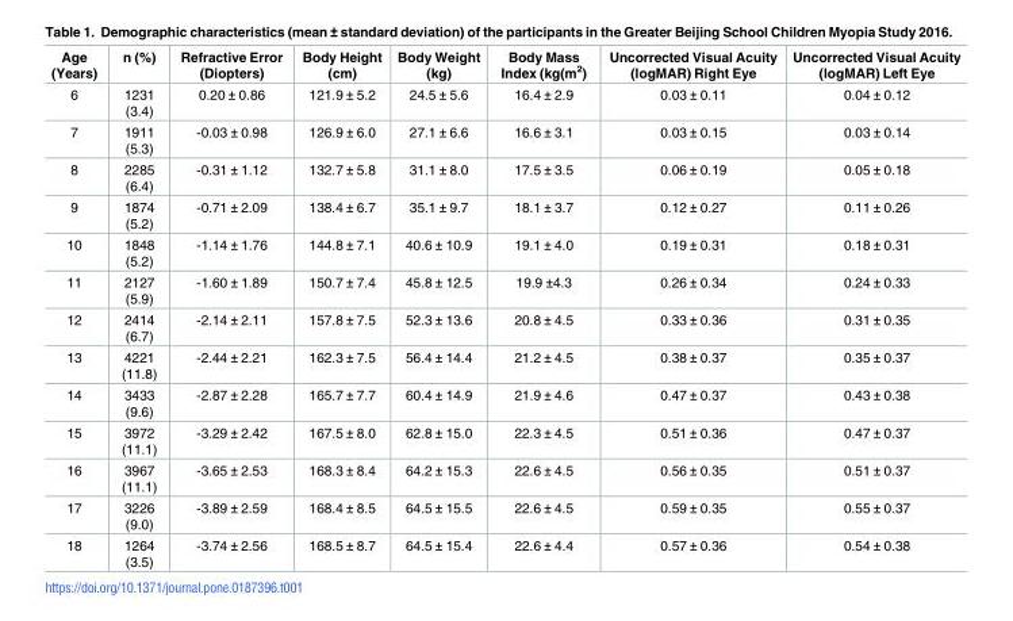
<table><thead><tr><td>Age (Years)</td><td>n (%)</td><td>Refractive Error (Diopters)</td><td>Body Height (cm)</td><td>Body Weight (kg)</td><td>Body Mass Index (kg(m<sup>2</sup>)</td><td>Uncorrected Visual Acuity (logMAR) Right Eye</td><td>Uncorrected Visual Acuity (logMAR) Left Eye</td></tr></thead><tbody><tr><td>6</td><td>1231 (3.4)</td><td>0.20 ± 0.86</td><td>121.9 ± 5.2</td><td>24.5 ± 5.6</td><td>16.4 ± 2.9</td><td>0.03 ± 0.11</td><td>0.04 ± 0.12</td></tr><tr><td>7</td><td>1911 (5.3)</td><td>-0.03 ± 0.98</td><td>126.9 ± 6.0</td><td>27.1 ± 6.6</td><td>16.6 ± 3.1</td><td>0.03 ± 0.15</td><td>0.03 ± 0.14</td></tr><tr><td>8</td><td>2285 (6.4)</td><td>-0.31 ± 1.12</td><td>132.7 ± 5.8</td><td>31.1 ± 8.0</td><td>17.5 ± 3.5</td><td>0.06 ± 0.19</td><td>0.05 ± 0.18</td></tr><tr><td>9</td><td>1874 (5.2)</td><td>-0.71 ± 2.09</td><td>138.4 ± 6.7</td><td>35.1 ± 9.7</td><td>18.1 ± 3.7</td><td>0.12 ± 0.27</td><td>0.11 ± 0.26</td></tr><tr><td>10</td><td>1848 (5.2)</td><td>-1.14 ± 1.76</td><td>144.8 ± 7.1</td><td>40.6 ± 10.9</td><td>19.1 ± 4.0</td><td>0.19 ± 0.31</td><td>0.18 ± 0.31</td></tr><tr><td>11</td><td>2127 (5.9)</td><td>-1.60 ± 1.89</td><td>150.7 ± 7.4</td><td>45.8 ± 12.5</td><td>19.9 ±4.3</td><td>0.26 ± 0.34</td><td>0.24 ± 0.33</td></tr><tr><td>12</td><td>2414 (6.7)</td><td>-2.14 ± 2.11</td><td>157.8 ± 7.5</td><td>52.3 ± 13.6</td><td>20.8 ± 4.5</td><td>0.33 ± 0.36</td><td>0.31 ± 0.35</td></tr><tr><td>13</td><td>4221 (11.8)</td><td>-2.44 ± 2.21</td><td>162.3 ± 7.5</td><td>56.4 ± 14.4</td><td>21.2 ± 4.5</td><td>0.38 ± 0.37</td><td>0.35 ± 0.37</td></tr><tr><td>14</td><td>3433 (9.6)</td><td>-2.87 ± 2.28</td><td>165.7 ± 7.7</td><td>60.4 ± 14.9</td><td>21.9 ± 4.6</td><td>0.47 ± 0.37</td><td>0.43 ± 0.38</td></tr><tr><td>15</td><td>3972 (11.1)</td><td>-3.29 ± 2.42</td><td>167.5 ± 8.0</td><td>62.8 ± 15.0</td><td>22.3 ± 4.5</td><td>0.51 ± 0.36</td><td>0.47 ± 0.37</td></tr><tr><td>16</td><td>3967 (11.1)</td><td>-3.65 ± 2.53</td><td>168.3 ± 8.4</td><td>64.2 ± 15.3</td><td>22.6 ± 4.5</td><td>0.56 ± 0.35</td><td>0.51 ± 0.37</td></tr><tr><td>17</td><td>3226 (9.0)</td><td>-3.89 ± 2.59</td><td>168.4 ± 8.5</td><td>64.5 ± 15.5</td><td>22.6 ± 4.5</td><td>0.59 ± 0.35</td><td>0.55 ± 0.37</td></tr><tr><td>18</td><td>1264 (3.5)</td><td>-3.74 ± 2.56</td><td>168.5 ± 8.7</td><td>64.5 ± 15.4</td><td>22.6 ± 4.4</td><td>0.57 ± 0.36</td><td>0.54 ± 0.38</td></tr></tbody></table>